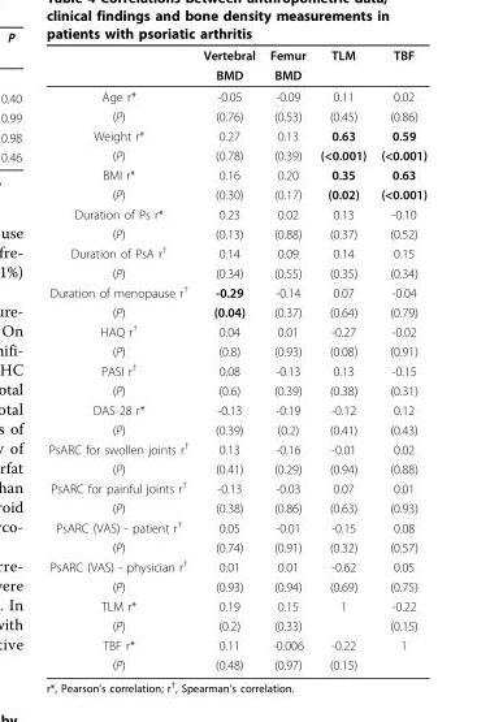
<table><thead><tr><td rowspan="2"></td><td rowspan="2">Vertebral BMD</td><td rowspan="2">Femur BMD</td><td rowspan="2">TLM</td><td rowspan="2">TBF</td></tr><tr></tr></thead><tbody><tr><td>Age r*</td><td>-0.05</td><td>-0.09</td><td>0.11</td><td>0.02</td></tr><tr><td>(P)</td><td>(0.76)</td><td>(0.53)</td><td>(0.45)</td><td>(0.86)</td></tr><tr><td>Weight r*</td><td>0.27</td><td>0.13</td><td>0.63</td><td>0.59</td></tr><tr><td>(P)</td><td>(0.78)</td><td>(0.39)</td><td>(&lt;0.001)</td><td>(&lt;0.001)</td></tr><tr><td>BMI r*</td><td>0.16</td><td>0.20</td><td>0.35</td><td>0.63</td></tr><tr><td>(P)</td><td>(0.30)</td><td>(0.17)</td><td>(0.02)</td><td>(&lt;0.001)</td></tr><tr><td>Duration of Ps r*</td><td>0.23</td><td>0.02</td><td>0.13</td><td>-0.10</td></tr><tr><td>(P)</td><td>(0.13)</td><td>(0.88)</td><td>(0.37)</td><td>(0.52)</td></tr><tr><td>Duration of PsA r<sup>†</sup></td><td>0.14</td><td>0.09</td><td>0.14</td><td>0.15</td></tr><tr><td>(P)</td><td>(0.34)</td><td>(0.55)</td><td>(0.35)</td><td>(0.34)</td></tr><tr><td>Duration of menopause r<sup>†</sup></td><td>-0.29</td><td>-0.14</td><td>0.07</td><td>-0.04</td></tr><tr><td>(P)</td><td>(0.04)</td><td>(0.37)</td><td>(0.64)</td><td>(0.79)</td></tr><tr><td>HAQ r<sup>†</sup></td><td>0.04</td><td>0.01</td><td>-0.27</td><td>-0.02</td></tr><tr><td>(P)</td><td>(0.8)</td><td>(0.93)</td><td>(0.08)</td><td>(0.91)</td></tr><tr><td>PASI r<sup>†</sup></td><td>0.08</td><td>-0.13</td><td>0.13</td><td>-0.15</td></tr><tr><td>(P)</td><td>(0.6)</td><td>(0.39)</td><td>(0.38)</td><td>(0.31)</td></tr><tr><td>DAS 28 r*</td><td>-0.13</td><td>-0.19</td><td>-0.12</td><td>0.12</td></tr><tr><td>(P)</td><td>(0.39)</td><td>(0.2)</td><td>(0.41)</td><td>(0.43)</td></tr><tr><td>PsARC for swollen joints r<sup>†</sup></td><td>0.13</td><td>-0.16</td><td>-0.01</td><td>0.02</td></tr><tr><td>(P)</td><td>(0.41)</td><td>(0.29)</td><td>(0.94)</td><td>(0.88)</td></tr><tr><td>PsARC for painful joints r<sup>†</sup></td><td>-0.13</td><td>-0.03</td><td>0.07</td><td>0.01</td></tr><tr><td>(P)</td><td>(0.38)</td><td>(0.86)</td><td>(0.63)</td><td>(0.93)</td></tr><tr><td>PsARC (VAS) - patient r<sup>†</sup></td><td>0.05</td><td>-0.01</td><td>-0.15</td><td>0.08</td></tr><tr><td>(P)</td><td>(0.74)</td><td>(0.91)</td><td>(0.32)</td><td>(0.57)</td></tr><tr><td>PsARC (VAS) - physician r<sup>†</sup></td><td>0.01</td><td>0.01</td><td>-0.62</td><td>0.05</td></tr><tr><td>(P)</td><td>(0.93)</td><td>(0.94)</td><td>(0.69)</td><td>(0.75)</td></tr><tr><td>TLM r*</td><td>0.19</td><td>0.15</td><td>1</td><td>-0.22</td></tr><tr><td>(P)</td><td>(0.2)</td><td>(0.33)</td><td></td><td>(0.15)</td></tr><tr><td>TBF r*</td><td>0.11</td><td>-0.006</td><td>-0.22</td><td>1</td></tr><tr><td>(P)</td><td>(0.48)</td><td>(0.97)</td><td>(0.15)</td><td></td></tr></tbody></table>